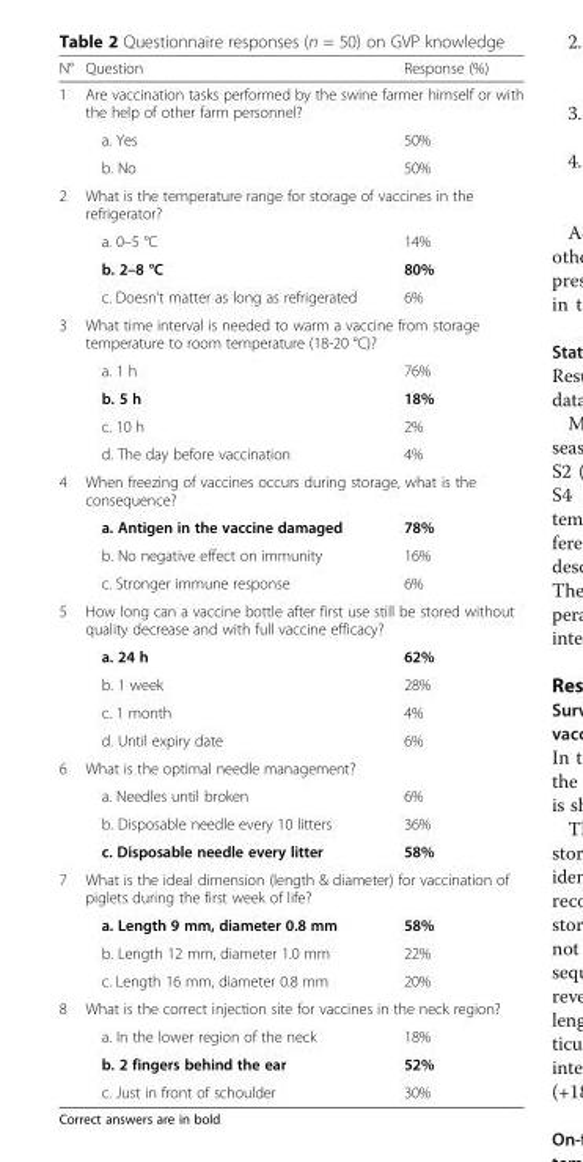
<table><thead><tr><td>N°</td><td>Question</td><td>Response (%)</td></tr></thead><tbody><tr><td rowspan="3">1</td><td colspan="2">Are vaccination tasks performed by the swine farmer himself or with the help of other farm personnel?</td></tr><tr><td>a. Yes</td><td>50%</td></tr><tr><td>b. No</td><td>50%</td></tr><tr><td rowspan="4">2</td><td colspan="2">What is the temperature range for storage of vaccines in the refrigerator?</td></tr><tr><td>a. 0–5 °C</td><td>14%</td></tr><tr><td>b. 2–8 °C</td><td>80%</td></tr><tr><td>c. Doesn’t matter as long as refrigerated</td><td>6%</td></tr><tr><td rowspan="5">3</td><td colspan="2">What time interval is needed to warm a vaccine from storage temperature to room temperature (18-20 °C)?</td></tr><tr><td>a. 1 h</td><td>76%</td></tr><tr><td>b. 5 h</td><td>18%</td></tr><tr><td>c. 10 h</td><td>2%</td></tr><tr><td>d. The day before vaccination</td><td>4%</td></tr><tr><td rowspan="4">4</td><td colspan="2">When freezing of vaccines occurs during storage, what is the consequence?</td></tr><tr><td>a. Antigen in the vaccine damaged</td><td>78%</td></tr><tr><td>b. No negative effect on immunity</td><td>16%</td></tr><tr><td>c. Stronger immune response</td><td>6%</td></tr><tr><td rowspan="5">5</td><td colspan="2">How long can a vaccine bottle after first use still be stored without quality decrease and with full vaccine efficacy?</td></tr><tr><td>a. 24 h</td><td>62%</td></tr><tr><td>b. 1 week</td><td>28%</td></tr><tr><td>c. 1 month</td><td>4%</td></tr><tr><td>d. Until expiry date</td><td>6%</td></tr><tr><td rowspan="4">6</td><td colspan="2">What is the optimal needle management?</td></tr><tr><td>a. Needles until broken</td><td>6%</td></tr><tr><td>b. Disposable needle every 10 litters</td><td>36%</td></tr><tr><td>c. Disposable needle every litter</td><td>58%</td></tr><tr><td rowspan="4">7</td><td colspan="2">What is the ideal dimension (length &amp; diameter) for vaccination of piglets during the first week of life?</td></tr><tr><td>a. Length 9 mm, diameter 0.8 mm</td><td>58%</td></tr><tr><td>b. Length 12 mm, diameter 1.0 mm</td><td>22%</td></tr><tr><td>c. Length 16 mm, diameter 0.8 mm</td><td>20%</td></tr><tr><td rowspan="4">8</td><td colspan="2">What is the correct injection site for vaccines in the neck region?</td></tr><tr><td>a. In the lower region of the neck</td><td>18%</td></tr><tr><td>b. 2 fingers behind the ear</td><td>52%</td></tr><tr><td>c. Just in front of schoulder</td><td>30%</td></tr></tbody></table>